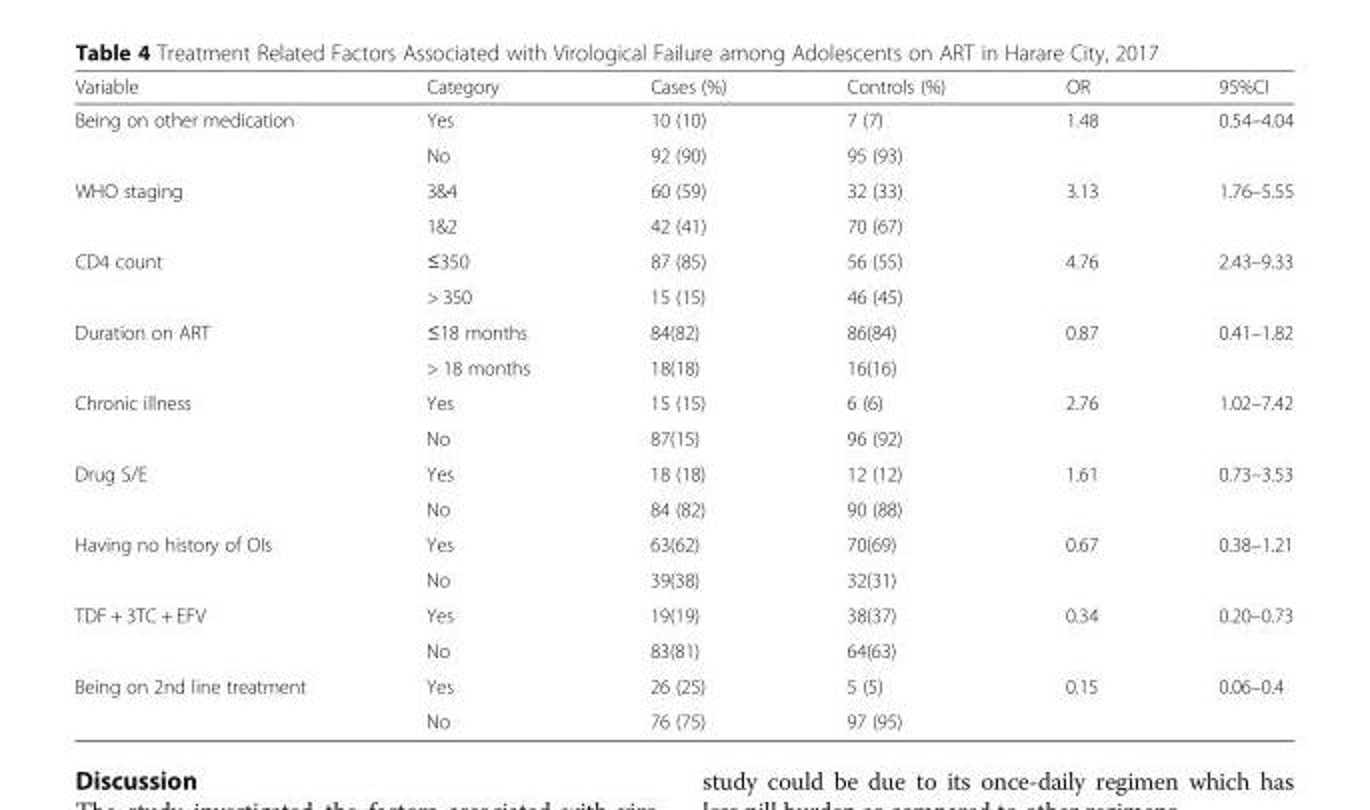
<table><thead><tr><td>Variable</td><td>Category</td><td>Cases (%)</td><td>Controls (%)</td><td>OR</td><td>95%CI</td></tr></thead><tbody><tr><td rowspan="2">Being on other medication</td><td>Yes</td><td>10 (10)</td><td>7 (7)</td><td>1.48</td><td>0.54–4.04</td></tr><tr><td>No</td><td>92 (90)</td><td>95 (93)</td><td></td><td></td></tr><tr><td rowspan="2">WHO staging</td><td>3&amp;4</td><td>60 (59)</td><td>32 (33)</td><td>3.13</td><td>1.76–5.55</td></tr><tr><td>1&amp;2</td><td>42 (41)</td><td>70 (67)</td><td></td><td></td></tr><tr><td rowspan="2">CD4 count</td><td>≤350</td><td>87 (85)</td><td>56 (55)</td><td>4.76</td><td>2.43–9.33</td></tr><tr><td>&gt; 350</td><td>15 (15)</td><td>46 (45)</td><td></td><td></td></tr><tr><td rowspan="2">Duration on ART</td><td>≤18 months</td><td>84(82)</td><td>86(84)</td><td rowspan="2">0.87</td><td rowspan="2">0.41–1.82</td></tr><tr><td>&gt; 18 months</td><td>18(18)</td><td>16(16)</td></tr><tr><td rowspan="2">Chronic illness</td><td>Yes</td><td>15 (15)</td><td>6 (6)</td><td>2.76</td><td>1.02–7.42</td></tr><tr><td>No</td><td>87(15)</td><td>96 (92)</td><td></td><td></td></tr><tr><td rowspan="2">Drug S/E</td><td>Yes</td><td>18 (18)</td><td>12 (12)</td><td>1.61</td><td>0.73–3.53</td></tr><tr><td>No</td><td>84 (82)</td><td>90 (88)</td><td></td><td></td></tr><tr><td rowspan="2">Having no history of OIs</td><td>Yes</td><td>63(62)</td><td>70(69)</td><td>0.67</td><td>0.38–1.21</td></tr><tr><td>No</td><td>39(38)</td><td>32(31)</td><td></td><td></td></tr><tr><td rowspan="2">TDF + 3TC + EFV</td><td>Yes</td><td>19(19)</td><td>38(37)</td><td>0.34</td><td>0.20–0.73</td></tr><tr><td>No</td><td>83(81)</td><td>64(63)</td><td></td><td></td></tr><tr><td rowspan="2">Being on 2nd line treatment</td><td>Yes</td><td>26 (25)</td><td>5 (5)</td><td>0.15</td><td>0.06–0.4</td></tr><tr><td>No</td><td>76 (75)</td><td>97 (95)</td><td></td><td></td></tr></tbody></table>